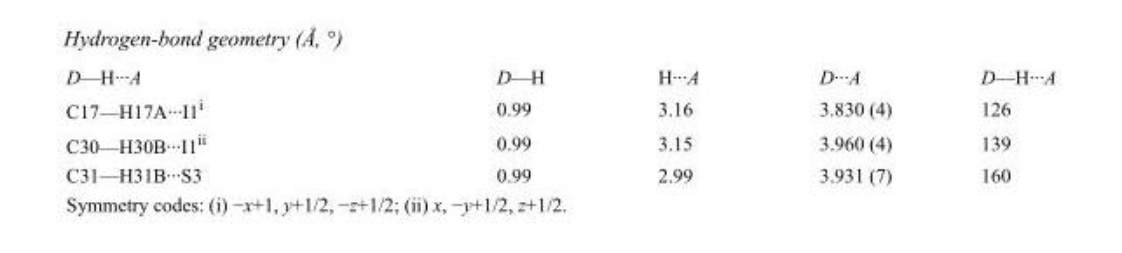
<table><tbody><tr><td>D—H···A</td><td>D—H</td><td>H···A</td><td>D···A</td><td>D—H···A</td></tr><tr><td>C17—H17A···I1<sup>i</sup></td><td>0.99</td><td>3.16</td><td>3.830 (4)</td><td>126</td></tr><tr><td>C30—H30B···I1<sup>ii</sup></td><td>0.99</td><td>3.15</td><td>3.960 (4)</td><td>139</td></tr><tr><td>C31—H31B···S3</td><td>0.99</td><td>2.99</td><td>3.931 (7)</td><td>160</td></tr></tbody></table>